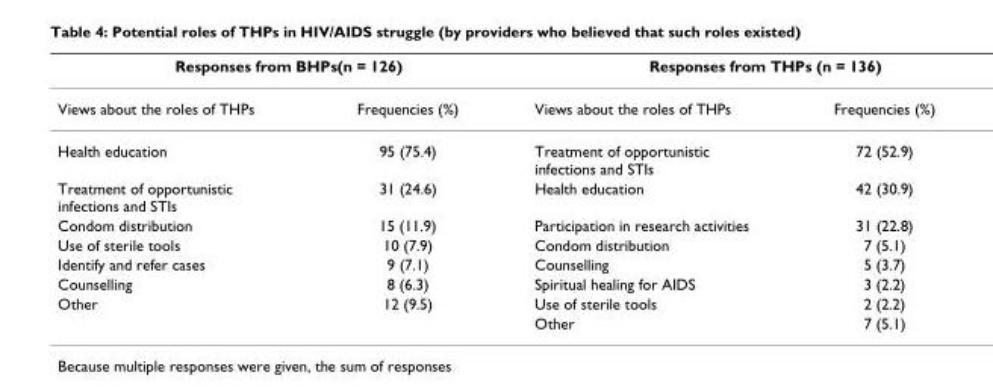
<table><thead><tr><td colspan="2">Responses from BHPs(n = 126)</td><td colspan="2">Responses from THPs (n = 136)</td></tr><tr><td>Views about the roles of THPs</td><td>Frequencies (%)</td><td>Views about the roles of THPs</td><td>Frequencies (%)</td></tr></thead><tbody><tr><td>Health education</td><td>95 (75.4)</td><td>Treatment of opportunistic infections and STIs</td><td>72 (52.9)</td></tr><tr><td>Treatment of opportunistic infections and STIs</td><td>31 (24.6)</td><td>Health education</td><td>42 (30.9)</td></tr><tr><td>Condom distribution</td><td>15 (11.9)</td><td>Participation in research activities</td><td>31 (22.8)</td></tr><tr><td>Use of sterile tools</td><td>10 (7.9)</td><td>Condom distribution</td><td>7 (5.1)</td></tr><tr><td>Identify and refer cases</td><td>9 (7.1)</td><td>Counselling</td><td>5 (3.7)</td></tr><tr><td>Counselling</td><td>8 (6.3)</td><td>Spiritual healing for AIDS</td><td>3 (2.2)</td></tr><tr><td rowspan="2">Other</td><td>12 (9.5)</td><td>Use of sterile tools</td><td>2 (2.2)</td></tr><tr><td></td><td>Other</td><td>7 (5.1)</td></tr></tbody></table>